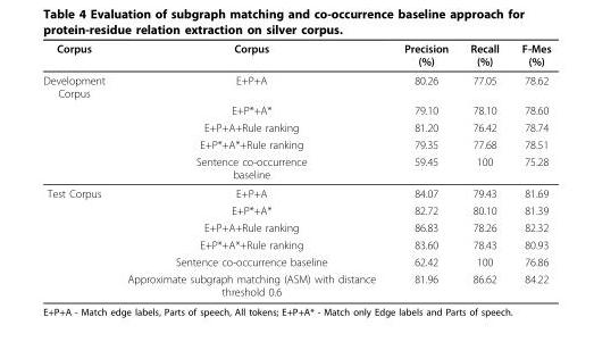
<table><thead><tr><td>Corpus</td><td>Corpus</td><td>Precision (%)</td><td>Recall (%)</td><td>F-Mes (%)</td></tr></thead><tbody><tr><td rowspan="5">Development Corpus</td><td>E+P+A</td><td>80.26</td><td>77.05</td><td>78.62</td></tr><tr><td>E+P*+A*</td><td>79.10</td><td>78.10</td><td>78.60</td></tr><tr><td>E+P+A+Rule ranking</td><td>81.20</td><td>76.42</td><td>78.74</td></tr><tr><td>E+P*+A*+Rule ranking</td><td>79.35</td><td>77.68</td><td>78.51</td></tr><tr><td>Sentence co-occurrence baseline</td><td>59.45</td><td>100</td><td>75.28</td></tr><tr><td rowspan="6">Test Corpus</td><td>E+P+A</td><td>84.07</td><td>79.43</td><td>81.69</td></tr><tr><td>E+P*+A*</td><td>82.72</td><td>80.10</td><td>81.39</td></tr><tr><td>E+P+A+Rule ranking</td><td>86.83</td><td>78.26</td><td>82.32</td></tr><tr><td>E+P*+A*+Rule ranking</td><td>83.60</td><td>78.43</td><td>80.93</td></tr><tr><td>Sentence co-occurrence baseline</td><td>62.42</td><td>100</td><td>76.86</td></tr><tr><td>Approximate subgraph matching (ASM) with distance threshold 0.6</td><td>81.96</td><td>86.62</td><td>84.22</td></tr></tbody></table>